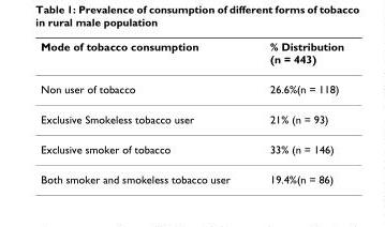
<table><thead><tr><td>Mode of tobacco consumption</td><td>% Distribution (n = 443)</td></tr></thead><tbody><tr><td>Non user of tobacco</td><td>26.6%(n = 118)</td></tr><tr><td>Exclusive Smokeless tobacco user</td><td>21% (n = 93)</td></tr><tr><td>Exclusive smoker of tobacco</td><td>33% (n = 146)</td></tr><tr><td>Both smoker and smokeless tobacco user</td><td>19.4%(n = 86)</td></tr></tbody></table>